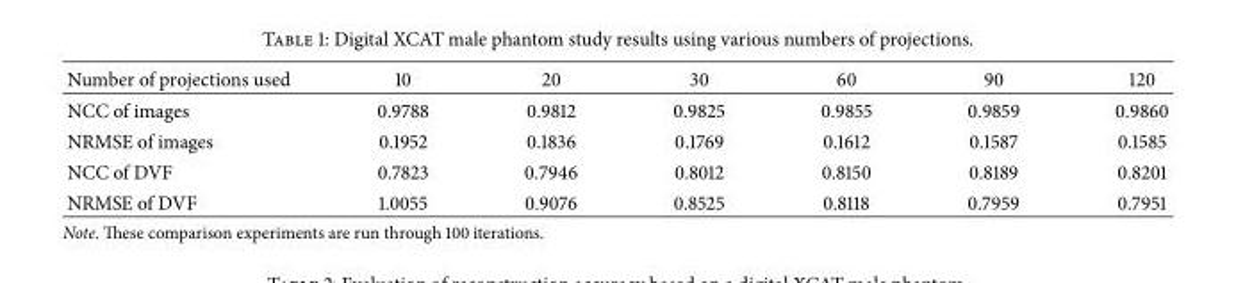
<table><thead><tr><td>Number of projections used</td><td>10</td><td>20</td><td>30</td><td>60</td><td>90</td><td>120</td></tr></thead><tbody><tr><td>NCC of images</td><td>0.9788</td><td>0.9812</td><td>0.9825</td><td>0.9855</td><td>0.9859</td><td>0.9860</td></tr><tr><td>NRMSE of images</td><td>0.1952</td><td>0.1836</td><td>0.1769</td><td>0.1612</td><td>0.1587</td><td>0.1585</td></tr><tr><td>NCC of DVF</td><td>0.7823</td><td>0.7946</td><td>0.8012</td><td>0.8150</td><td>0.8189</td><td>0.8201</td></tr><tr><td>NRMSE of DVF</td><td>1.0055</td><td>0.9076</td><td>0.8525</td><td>0.8118</td><td>0.7959</td><td>0.7951</td></tr></tbody></table>